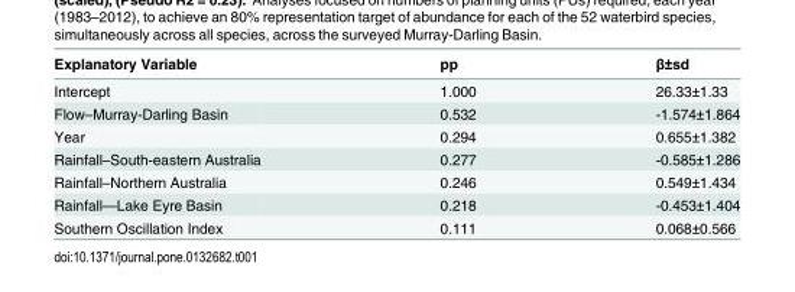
<table><thead><tr><td>Explanatory Variable</td><td>pp</td><td>β±sd</td></tr></thead><tbody><tr><td>Intercept</td><td>1.000</td><td>26.33±1.33</td></tr><tr><td>Flow–Murray-Darling Basin</td><td>0.532</td><td>-1.574±1.864</td></tr><tr><td>Year</td><td>0.294</td><td>0.655±1.382</td></tr><tr><td>Rainfall–South-eastern Australia</td><td>0.277</td><td>-0.585±1.286</td></tr><tr><td>Rainfall–Northern Australia</td><td>0.246</td><td>0.549±1.434</td></tr><tr><td>Rainfall—Lake Eyre Basin</td><td>0.218</td><td>-0.453±1.404</td></tr><tr><td>Southern Oscillation Index</td><td>0.111</td><td>0.068±0.566</td></tr></tbody></table>